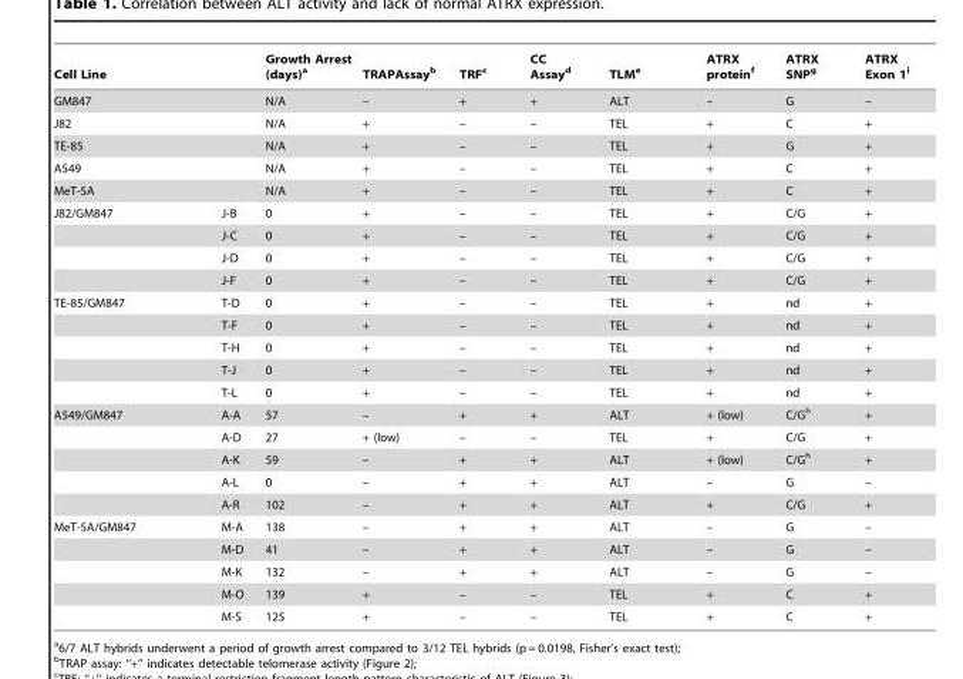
<table><thead><tr><td colspan="2">Cell Line</td><td>Growth Arrest (days)<sup>a</sup></td><td>TRAPAssay<sup>b</sup></td><td>TRF<sup>c</sup></td><td>CC Assay<sup>d</sup></td><td>TLM<sup>e</sup></td><td>ATRX protein<sup>f</sup></td><td>ATRX SNP<sup>g</sup></td><td>ATRX Exon 1<sup>i</sup></td></tr></thead><tbody><tr><td colspan="2">GM847</td><td>N/A</td><td>–</td><td>+</td><td>+</td><td>ALT</td><td>–</td><td>G</td><td>–</td></tr><tr><td colspan="2">J82</td><td>N/A</td><td>+</td><td>–</td><td>–</td><td>TEL</td><td>+</td><td>C</td><td>+</td></tr><tr><td colspan="2">TE-85</td><td>N/A</td><td>+</td><td>–</td><td>–</td><td>TEL</td><td>+</td><td>G</td><td>+</td></tr><tr><td colspan="2">A549</td><td>N/A</td><td>+</td><td>–</td><td>–</td><td>TEL</td><td>+</td><td>C</td><td>+</td></tr><tr><td colspan="2">MeT-5A</td><td>N/A</td><td>+</td><td>–</td><td>–</td><td>TEL</td><td>+</td><td>C</td><td>+</td></tr><tr><td rowspan="4">J82/GM847</td><td>J-B</td><td>0</td><td>+</td><td>–</td><td>–</td><td>TEL</td><td>+</td><td>C/G</td><td>+</td></tr><tr><td>J-C</td><td>0</td><td>+</td><td>–</td><td>–</td><td>TEL</td><td>+</td><td>C/G</td><td>+</td></tr><tr><td>J-D</td><td>0</td><td>+</td><td>–</td><td>–</td><td>TEL</td><td>+</td><td>C/G</td><td>+</td></tr><tr><td>J-F</td><td>0</td><td>+</td><td>–</td><td>–</td><td>TEL</td><td>+</td><td>C/G</td><td>+</td></tr><tr><td rowspan="5">TE-85/GM847</td><td>T-D</td><td>0</td><td>+</td><td>–</td><td>–</td><td>TEL</td><td>+</td><td>nd</td><td>+</td></tr><tr><td>T-F</td><td>0</td><td>+</td><td>–</td><td>–</td><td>TEL</td><td>+</td><td>nd</td><td>+</td></tr><tr><td>T-H</td><td>0</td><td>+</td><td>–</td><td>–</td><td>TEL</td><td>+</td><td>nd</td><td>+</td></tr><tr><td>T-J</td><td>0</td><td>+</td><td>–</td><td>–</td><td>TEL</td><td>+</td><td>nd</td><td>+</td></tr><tr><td>T-L</td><td>0</td><td>+</td><td>–</td><td>–</td><td>TEL</td><td>+</td><td>nd</td><td>+</td></tr><tr><td rowspan="5">A549/GM847</td><td>A-A</td><td>57</td><td>–</td><td>+</td><td>+</td><td>ALT</td><td>+ (low)</td><td>C/G<sup>h</sup></td><td>+</td></tr><tr><td>A-D</td><td>27</td><td>+ (low)</td><td>–</td><td>–</td><td>TEL</td><td>+</td><td>C/G</td><td>+</td></tr><tr><td>A-K</td><td>59</td><td>–</td><td>+</td><td>+</td><td>ALT</td><td>+ (low)</td><td>C/G<sup>h</sup></td><td>+</td></tr><tr><td>A-L</td><td>0</td><td>–</td><td>+</td><td>+</td><td>ALT</td><td>–</td><td>G</td><td>–</td></tr><tr><td>A-R</td><td>102</td><td>–</td><td>+</td><td>+</td><td>ALT</td><td>+</td><td>C/G</td><td>+</td></tr><tr><td rowspan="5">MeT-5A/GM847</td><td>M-A</td><td>138</td><td>–</td><td>+</td><td>+</td><td>ALT</td><td>–</td><td>G</td><td>–</td></tr><tr><td>M-D</td><td>41</td><td>–</td><td>+</td><td>+</td><td>ALT</td><td>–</td><td>G</td><td>–</td></tr><tr><td>M-K</td><td>132</td><td>–</td><td>+</td><td>+</td><td>ALT</td><td>–</td><td>G</td><td>–</td></tr><tr><td>M-O</td><td>139</td><td>+</td><td>–</td><td>–</td><td>TEL</td><td>+</td><td>C</td><td>+</td></tr><tr><td>M-S</td><td>125</td><td>+</td><td>–</td><td>–</td><td>TEL</td><td>+</td><td>C</td><td>+</td></tr></tbody></table>